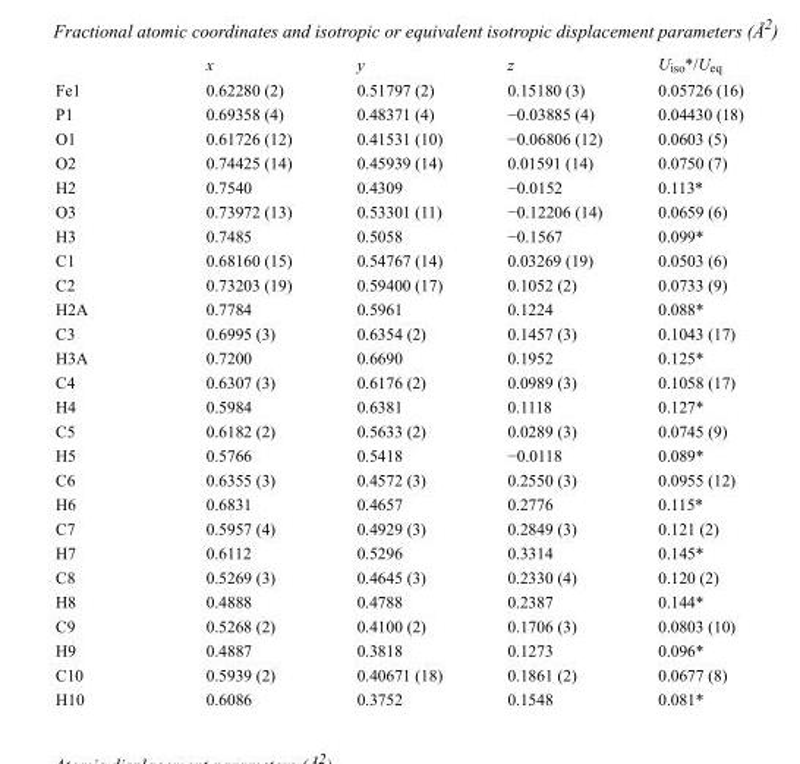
<table><thead><tr><td></td><td>x</td><td>y</td><td>z</td><td>U<sub>iso</sub>*/U<sub>eq</sub></td></tr></thead><tbody><tr><td>Fe1</td><td>0.62280 (2)</td><td>0.51797 (2)</td><td>0.15180 (3)</td><td>0.05726 (16)</td></tr><tr><td>P1</td><td>0.69358 (4)</td><td>0.48371 (4)</td><td>−0.03885 (4)</td><td>0.04430 (18)</td></tr><tr><td>O1</td><td>0.61726 (12)</td><td>0.41531 (10)</td><td>−0.06806 (12)</td><td>0.0603 (5)</td></tr><tr><td>O2</td><td>0.74425 (14)</td><td>0.45939 (14)</td><td>0.01591 (14)</td><td>0.0750 (7)</td></tr><tr><td>H2</td><td>0.7540</td><td>0.4309</td><td>−0.0152</td><td>0.113*</td></tr><tr><td>O3</td><td>0.73972 (13)</td><td>0.53301 (11)</td><td>−0.12206 (14)</td><td>0.0659 (6)</td></tr><tr><td>H3</td><td>0.7485</td><td>0.5058</td><td>−0.1567</td><td>0.099*</td></tr><tr><td>C1</td><td>0.68160 (15)</td><td>0.54767 (14)</td><td>0.03269 (19)</td><td>0.0503 (6)</td></tr><tr><td>C2</td><td>0.73203 (19)</td><td>0.59400 (17)</td><td>0.1052 (2)</td><td>0.0733 (9)</td></tr><tr><td>H2A</td><td>0.7784</td><td>0.5961</td><td>0.1224</td><td>0.088*</td></tr><tr><td>C3</td><td>0.6995 (3)</td><td>0.6354 (2)</td><td>0.1457 (3)</td><td>0.1043 (17)</td></tr><tr><td>H3A</td><td>0.7200</td><td>0.6690</td><td>0.1952</td><td>0.125*</td></tr><tr><td>C4</td><td>0.6307 (3)</td><td>0.6176 (2)</td><td>0.0989 (3)</td><td>0.1058 (17)</td></tr><tr><td>H4</td><td>0.5984</td><td>0.6381</td><td>0.1118</td><td>0.127*</td></tr><tr><td>C5</td><td>0.6182 (2)</td><td>0.5633 (2)</td><td>0.0289 (3)</td><td>0.0745 (9)</td></tr><tr><td>H5</td><td>0.5766</td><td>0.5418</td><td>−0.0118</td><td>0.089*</td></tr><tr><td>C6</td><td>0.6355 (3)</td><td>0.4572 (3)</td><td>0.2550 (3)</td><td>0.0955 (12)</td></tr><tr><td>H6</td><td>0.6831</td><td>0.4657</td><td>0.2776</td><td>0.115*</td></tr><tr><td>C7</td><td>0.5957 (4)</td><td>0.4929 (3)</td><td>0.2849 (3)</td><td>0.121 (2)</td></tr><tr><td>H7</td><td>0.6112</td><td>0.5296</td><td>0.3314</td><td>0.145*</td></tr><tr><td>C8</td><td>0.5269 (3)</td><td>0.4645 (3)</td><td>0.2330 (4)</td><td>0.120 (2)</td></tr><tr><td>H8</td><td>0.4888</td><td>0.4788</td><td>0.2387</td><td>0.144*</td></tr><tr><td>C9</td><td>0.5268 (2)</td><td>0.4100 (2)</td><td>0.1706 (3)</td><td>0.0803 (10)</td></tr><tr><td>H9</td><td>0.4887</td><td>0.3818</td><td>0.1273</td><td>0.096*</td></tr><tr><td>C10</td><td>0.5939 (2)</td><td>0.40671 (18)</td><td>0.1861 (2)</td><td>0.0677 (8)</td></tr><tr><td>H10</td><td>0.6086</td><td>0.3752</td><td>0.1548</td><td>0.081*</td></tr></tbody></table>